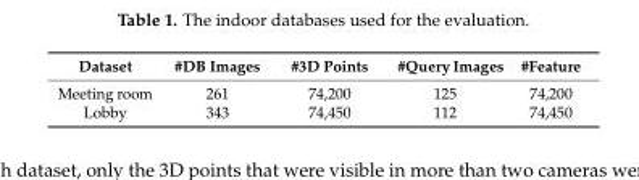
<table><thead><tr><td>Dataset</td><td>#DB Images</td><td>#3D Points</td><td>#Query Images</td><td>#Feature</td></tr></thead><tbody><tr><td>Meeting room</td><td>261</td><td>74,200</td><td>125</td><td>74,200</td></tr><tr><td>Lobby</td><td>343</td><td>74,450</td><td>112</td><td>74,450</td></tr></tbody></table>